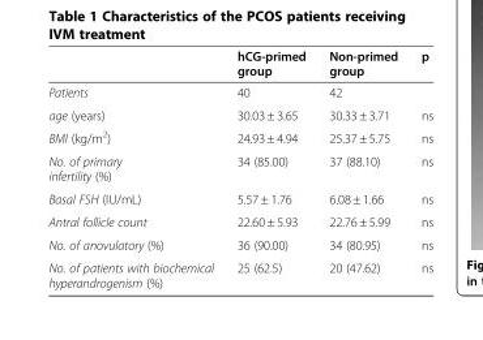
<table><thead><tr><td></td><td>hCG-primed group</td><td>Non-primed group</td><td>p</td></tr></thead><tbody><tr><td>Patients</td><td>40</td><td>42</td><td></td></tr><tr><td>age (years)</td><td>30.03 ± 3.65</td><td>30.33 ± 3.71</td><td>ns</td></tr><tr><td>BMI (kg/m<sup>2</sup>)</td><td>24.93 ± 4.94</td><td>25.37 ± 5.75</td><td>ns</td></tr><tr><td>No. of primary infertility (%)</td><td>34 (85.00)</td><td>37 (88.10)</td><td>ns</td></tr><tr><td>Basal FSH (IU/mL)</td><td>5.57 ± 1.76</td><td>6.08 ± 1.66</td><td>ns</td></tr><tr><td>Antral follicle count</td><td>22.60 ± 5.93</td><td>22.76 ± 5.99</td><td>ns</td></tr><tr><td>No. of anovulatory (%)</td><td>36 (90.00)</td><td>34 (80.95)</td><td>ns</td></tr><tr><td>No. of patients with biochemical hyperandrogenism (%)</td><td>25 (62.5)</td><td>20 (47.62)</td><td>ns</td></tr></tbody></table>